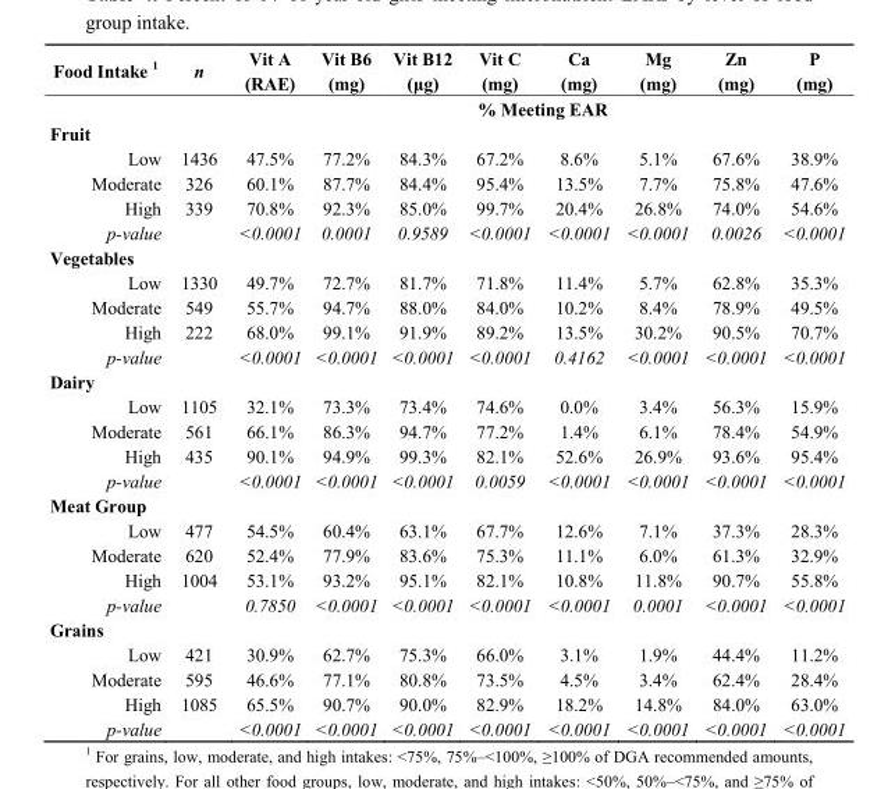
<table><thead><tr><td>Food Intake <sup>1</sup></td><td>n</td><td>Vit A (RAE)</td><td>Vit B6 (mg)</td><td>Vit B12 (μg)</td><td>Vit C (mg)</td><td>Ca (mg)</td><td>Mg (mg)</td><td>Zn (mg)</td><td>P (mg)</td></tr></thead><tbody><tr><td></td><td></td><td colspan="8">% Meeting EAR</td></tr><tr><td colspan="10">Fruit</td></tr><tr><td>Low</td><td>1436</td><td>47.5%</td><td>77.2%</td><td>84.3%</td><td>67.2%</td><td>8.6%</td><td>5.1%</td><td>67.6%</td><td>38.9%</td></tr><tr><td>Moderate</td><td>326</td><td>60.1%</td><td>87.7%</td><td>84.4%</td><td>95.4%</td><td>13.5%</td><td>7.7%</td><td>75.8%</td><td>47.6%</td></tr><tr><td>High</td><td>339</td><td>70.8%</td><td>92.3%</td><td>85.0%</td><td>99.7%</td><td>20.4%</td><td>26.8%</td><td>74.0%</td><td>54.6%</td></tr><tr><td>p-value</td><td></td><td>&lt;0.0001</td><td>0.0001</td><td>0.9589</td><td>&lt;0.0001</td><td>&lt;0.0001</td><td>&lt;0.0001</td><td>0.0026</td><td>&lt;0.0001</td></tr><tr><td colspan="10">Vegetables</td></tr><tr><td>Low</td><td>1330</td><td>49.7%</td><td>72.7%</td><td>81.7%</td><td>71.8%</td><td>11.4%</td><td>5.7%</td><td>62.8%</td><td>35.3%</td></tr><tr><td>Moderate</td><td>549</td><td>55.7%</td><td>94.7%</td><td>88.0%</td><td>84.0%</td><td>10.2%</td><td>8.4%</td><td>78.9%</td><td>49.5%</td></tr><tr><td>High</td><td>222</td><td>68.0%</td><td>99.1%</td><td>91.9%</td><td>89.2%</td><td>13.5%</td><td>30.2%</td><td>90.5%</td><td>70.7%</td></tr><tr><td>p-value</td><td></td><td>&lt;0.0001</td><td>&lt;0.0001</td><td>&lt;0.0001</td><td>&lt;0.0001</td><td>0.4162</td><td>&lt;0.0001</td><td>&lt;0.0001</td><td>&lt;0.0001</td></tr><tr><td colspan="10">Dairy</td></tr><tr><td>Low</td><td>1105</td><td>32.1%</td><td>73.3%</td><td>73.4%</td><td>74.6%</td><td>0.0%</td><td>3.4%</td><td>56.3%</td><td>15.9%</td></tr><tr><td>Moderate</td><td>561</td><td>66.1%</td><td>86.3%</td><td>94.7%</td><td>77.2%</td><td>1.4%</td><td>6.1%</td><td>78.4%</td><td>54.9%</td></tr><tr><td>High</td><td>435</td><td>90.1%</td><td>94.9%</td><td>99.3%</td><td>82.1%</td><td>52.6%</td><td>26.9%</td><td>93.6%</td><td>95.4%</td></tr><tr><td>p-value</td><td></td><td>&lt;0.0001</td><td>&lt;0.0001</td><td>&lt;0.0001</td><td>0.0059</td><td>&lt;0.0001</td><td>&lt;0.0001</td><td>&lt;0.0001</td><td>&lt;0.0001</td></tr><tr><td colspan="10">Meat Group</td></tr><tr><td>Low</td><td>477</td><td>54.5%</td><td>60.4%</td><td>63.1%</td><td>67.7%</td><td>12.6%</td><td>7.1%</td><td>37.3%</td><td>28.3%</td></tr><tr><td>Moderate</td><td>620</td><td>52.4%</td><td>77.9%</td><td>83.6%</td><td>75.3%</td><td>11.1%</td><td>6.0%</td><td>61.3%</td><td>32.9%</td></tr><tr><td>High</td><td>1004</td><td>53.1%</td><td>93.2%</td><td>95.1%</td><td>82.1%</td><td>10.8%</td><td>11.8%</td><td>90.7%</td><td>55.8%</td></tr><tr><td>p-value</td><td></td><td>0.7850</td><td>&lt;0.0001</td><td>&lt;0.0001</td><td>&lt;0.0001</td><td>&lt;0.0001</td><td>0.0001</td><td>&lt;0.0001</td><td>&lt;0.0001</td></tr><tr><td colspan="10">Grains</td></tr><tr><td>Low</td><td>421</td><td>30.9%</td><td>62.7%</td><td>75.3%</td><td>66.0%</td><td>3.1%</td><td>1.9%</td><td>44.4%</td><td>11.2%</td></tr><tr><td>Moderate</td><td>595</td><td>46.6%</td><td>77.1%</td><td>80.8%</td><td>73.5%</td><td>4.5%</td><td>3.4%</td><td>62.4%</td><td>28.4%</td></tr><tr><td>High</td><td>1085</td><td>65.5%</td><td>90.7%</td><td>90.0%</td><td>82.9%</td><td>18.2%</td><td>14.8%</td><td>84.0%</td><td>63.0%</td></tr><tr><td>p-value</td><td></td><td>&lt;0.0001</td><td>&lt;0.0001</td><td>&lt;0.0001</td><td>&lt;0.0001</td><td>&lt;0.0001</td><td>&lt;0.0001</td><td>&lt;0.0001</td><td>&lt;0.0001</td></tr></tbody></table>